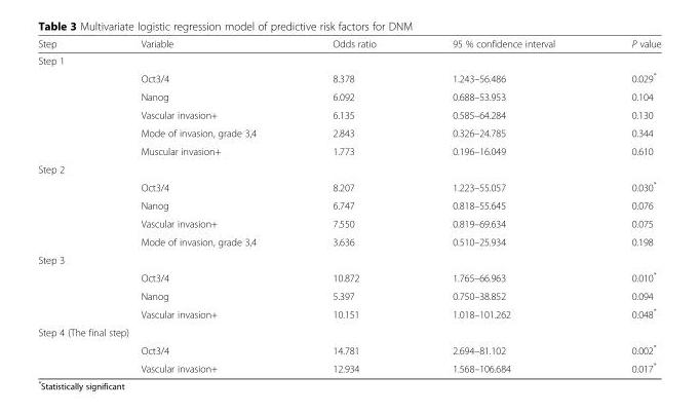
<table><thead><tr><td>Step</td><td>Variable</td><td>Odds ratio</td><td>95 % confidence interval</td><td>P value</td></tr></thead><tbody><tr><td colspan="5">Step 1</td></tr><tr><td></td><td>Oct3/4</td><td>8.378</td><td>1.243–56.486</td><td>0.029*</td></tr><tr><td></td><td>Nanog</td><td>6.092</td><td>0.688–53.953</td><td>0.104</td></tr><tr><td></td><td>Vascular invasion+</td><td>6.135</td><td>0.585–64.284</td><td>0.130</td></tr><tr><td></td><td>Mode of invasion, grade 3,4</td><td>2.843</td><td>0.326–24.785</td><td>0.344</td></tr><tr><td></td><td>Muscular invasion+</td><td>1.773</td><td>0.196–16.049</td><td>0.610</td></tr><tr><td colspan="5">Step 2</td></tr><tr><td></td><td>Oct3/4</td><td>8.207</td><td>1.223–55.057</td><td>0.030*</td></tr><tr><td></td><td>Nanog</td><td>6.747</td><td>0.818–55.645</td><td>0.076</td></tr><tr><td></td><td>Vascular invasion+</td><td>7.550</td><td>0.819–69.634</td><td>0.075</td></tr><tr><td></td><td>Mode of invasion, grade 3,4</td><td>3.636</td><td>0.510–25.934</td><td>0.198</td></tr><tr><td colspan="5">Step 3</td></tr><tr><td></td><td>Oct3/4</td><td>10.872</td><td>1.765–66.963</td><td>0.010*</td></tr><tr><td></td><td>Nanog</td><td>5.397</td><td>0.750–38.852</td><td>0.094</td></tr><tr><td></td><td>Vascular invasion+</td><td>10.151</td><td>1.018–101.262</td><td>0.048*</td></tr><tr><td colspan="5">Step 4 (The final step)</td></tr><tr><td></td><td>Oct3/4</td><td>14.781</td><td>2.694–81.102</td><td>0.002*</td></tr><tr><td></td><td>Vascular invasion+</td><td>12.934</td><td>1.568–106.684</td><td>0.017*</td></tr></tbody></table>